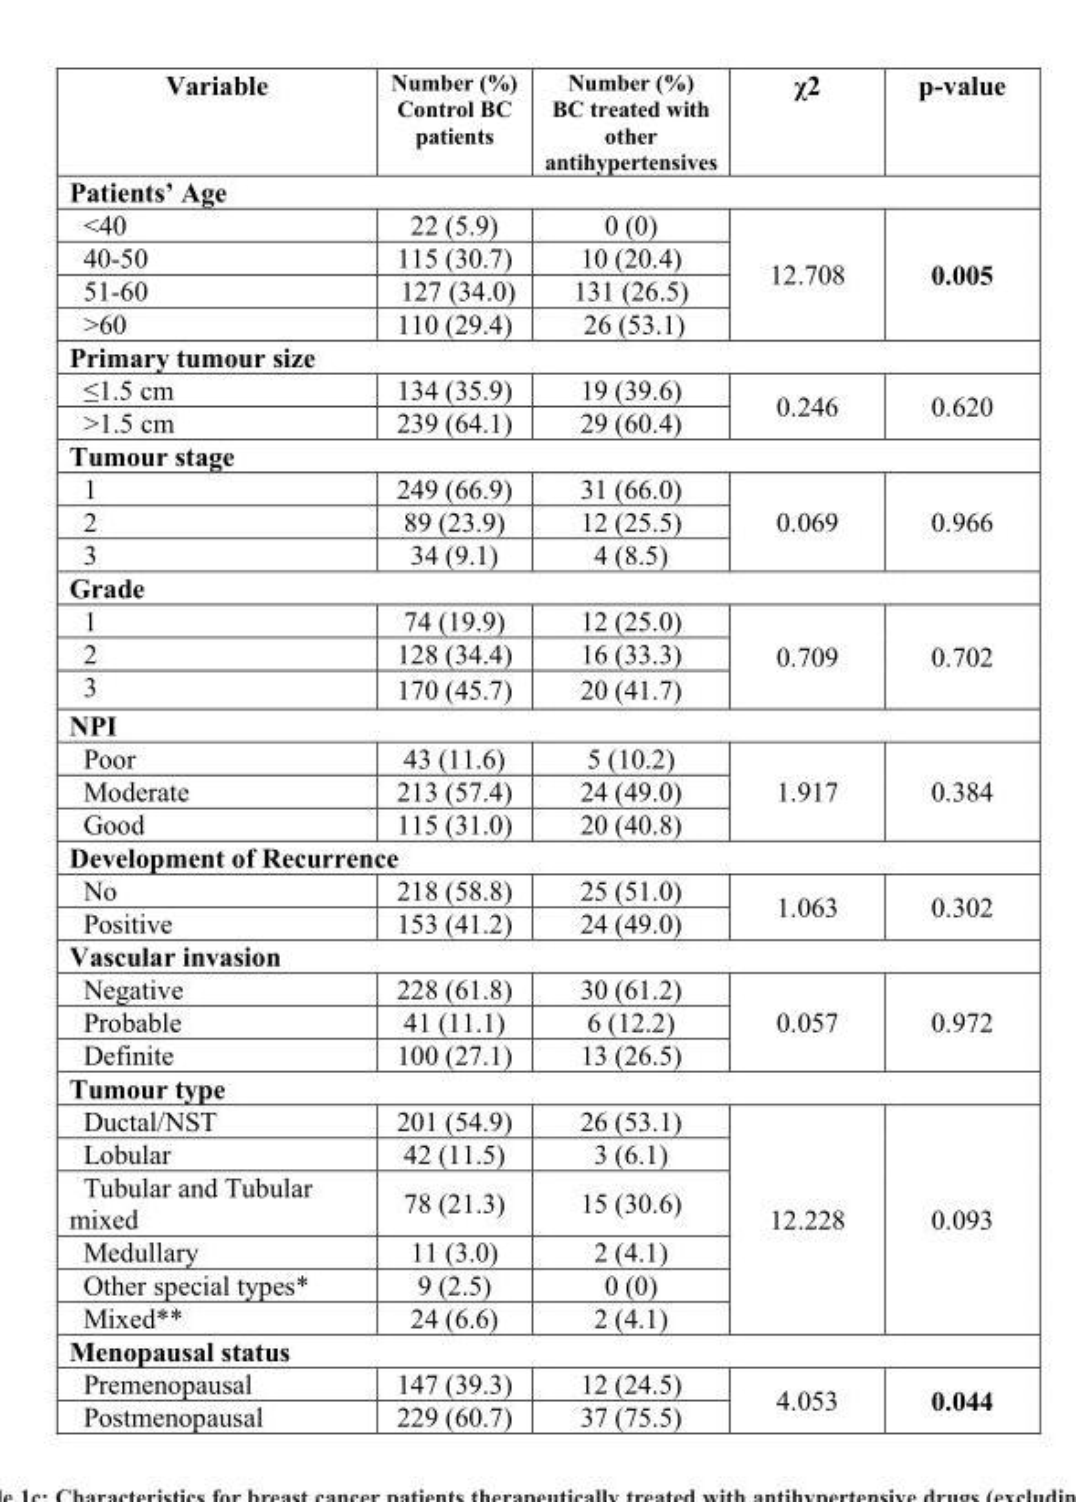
<table><thead><tr><td>Variable</td><td>Number (%) control bc patients</td><td>Number (%) bc treated with other antihypertensives</td><td>χ<sup>2</sup></td><td>p-value</td></tr></thead><tbody><tr><td colspan="5">Patients’ Age</td></tr><tr><td>&lt;40</td><td>22 (5.9)</td><td>0 (0)</td><td rowspan="4">12.708</td><td rowspan="4">0.005</td></tr><tr><td>40-50</td><td>115 (30.7)</td><td>10 (20.4)</td></tr><tr><td>51-60</td><td>127 (34.0)</td><td>131 (26.5)</td></tr><tr><td>&gt;60</td><td>110 (29.4)</td><td>26 (53.1)</td></tr><tr><td colspan="5">Primary tumour size</td></tr><tr><td>≤1.5 cm</td><td>134 (35.9)</td><td>19 (39.6)</td><td rowspan="2">0.246</td><td rowspan="2">0.620</td></tr><tr><td>&gt;1.5 cm</td><td>239 (64.1)</td><td>29 (60.4)</td></tr><tr><td colspan="5">tumour stage</td></tr><tr><td>1</td><td>249 (66.9)</td><td>31 (66.0)</td><td rowspan="3">0.069</td><td rowspan="3">0.966</td></tr><tr><td>2</td><td>89 (23.9)</td><td>12 (25.5)</td></tr><tr><td>3</td><td>34 (9.1)</td><td>4 (8.5)</td></tr><tr><td colspan="5">Grade</td></tr><tr><td>1</td><td>74 (19.9)</td><td>12 (25.0)</td><td rowspan="3">0.709</td><td rowspan="3">0.702</td></tr><tr><td>2</td><td>128 (34.4)</td><td>16 (33.3)</td></tr><tr><td>3</td><td>170 (45.7)</td><td>20 (41.7)</td></tr><tr><td colspan="5">NPI</td></tr><tr><td>Poor</td><td>43 (11.6)</td><td>5 (10.2)</td><td rowspan="3">1.917</td><td rowspan="3">0.384</td></tr><tr><td>Moderate</td><td>213 (57.4)</td><td>24 (49.0)</td></tr><tr><td>Good</td><td>115 (31.0)</td><td>20 (40.8)</td></tr><tr><td colspan="5">Development of recurrence</td></tr><tr><td>No</td><td>218 (58.8)</td><td>25 (51.0)</td><td rowspan="2">1.063</td><td rowspan="2">0.302</td></tr><tr><td>Positive</td><td>153 (41.2)</td><td>24 (49.0)</td></tr><tr><td colspan="5">Vascular invasion</td></tr><tr><td>Negative</td><td>228 (61.8)</td><td>30 (61.2)</td><td rowspan="3">0.057</td><td rowspan="3">0.972</td></tr><tr><td>Probable</td><td>41 (11.1)</td><td>6 (12.2)</td></tr><tr><td>Definite</td><td>100 (27.1)</td><td>13 (26.5)</td></tr><tr><td colspan="5">tumour type</td></tr><tr><td>Ductal/NST</td><td>201 (54.9)</td><td>26 (53.1)</td><td rowspan="6">12.228</td><td rowspan="6">0.093</td></tr><tr><td>Lobular</td><td>42 (11.5)</td><td>3 (6.1)</td></tr><tr><td>Tubular and Tubular mixed</td><td>78 (21.3)</td><td>15 (30.6)</td></tr><tr><td>Medullary</td><td>11 (3.0)</td><td>2 (4.1)</td></tr><tr><td>Other special types*</td><td>9 (2.5)</td><td>0 (0)</td></tr><tr><td>Mixed**</td><td>24 (6.6)</td><td>2 (4.1)</td></tr><tr><td colspan="5">menopausal status</td></tr><tr><td>Premenopausal</td><td>147 (39.3)</td><td>12 (24.5)</td><td rowspan="2">4.053</td><td rowspan="2">0.044</td></tr><tr><td>Postmenopausal</td><td>229 (60.7)</td><td>37 (75.5)</td></tr></tbody></table>